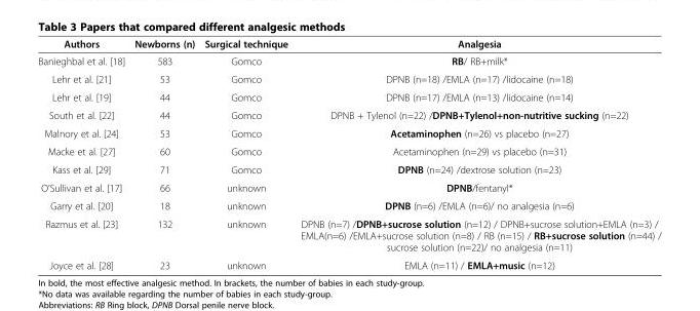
<table><thead><tr><td>Authors</td><td>Newborns (n)</td><td>Surgical technique</td><td>Analgesia</td></tr></thead><tbody><tr><td>Banieghbal et al. [18]</td><td>583</td><td>Gomco</td><td>RB/ RB+milk*</td></tr><tr><td>Lehr et al. [21]</td><td>53</td><td>Gomco</td><td>DPNB (n=18) /EMLA (n=17) /lidocaine (n=18)</td></tr><tr><td>Lehr et al. [19]</td><td>44</td><td>Gomco</td><td>DPNB (n=17) /EMLA (n=13) /lidocaine (n=14)</td></tr><tr><td>South et al. [22]</td><td>44</td><td>Gomco</td><td>DPNB + Tylenol (n=22) /DPNB+Tylenol+non-nutritive sucking (n=22)</td></tr><tr><td>Malnory et al. [24]</td><td>53</td><td>Gomco</td><td>Acetaminophen (n=26) vs placebo (n=27)</td></tr><tr><td>Macke et al. [27]</td><td>60</td><td>Gomco</td><td>Acetaminophen (n=29) vs placebo (n=31)</td></tr><tr><td>Kass et al. [29]</td><td>71</td><td>Gomco</td><td>DPNB (n=24) /dextrose solution (n=23)</td></tr><tr><td>O’Sullivan et al. [17]</td><td>66</td><td>unknown</td><td>DPNB/fentanyl*</td></tr><tr><td>Garry et al. [20]</td><td>18</td><td>unknown</td><td>DPNB (n=6) /EMLA (n=6)/ no analgesia (n=6)</td></tr><tr><td>Razmus et al. [23]</td><td>132</td><td>unknown</td><td>DPNB (n=7) /DPNB+sucrose solution (n=12) / DPNB+sucrose solution+EMLA (n=3) / EMLA(n=6) /EMLA+sucrose solution (n=8) / RB (n=15) / RB+sucrose solution (n=44) / sucrose solution (n=22)/ no analgesia (n=11)</td></tr><tr><td>Joyce et al. [28]</td><td>23</td><td>unknown</td><td>EMLA (n=11) / EMLA+music (n=12)</td></tr></tbody></table>